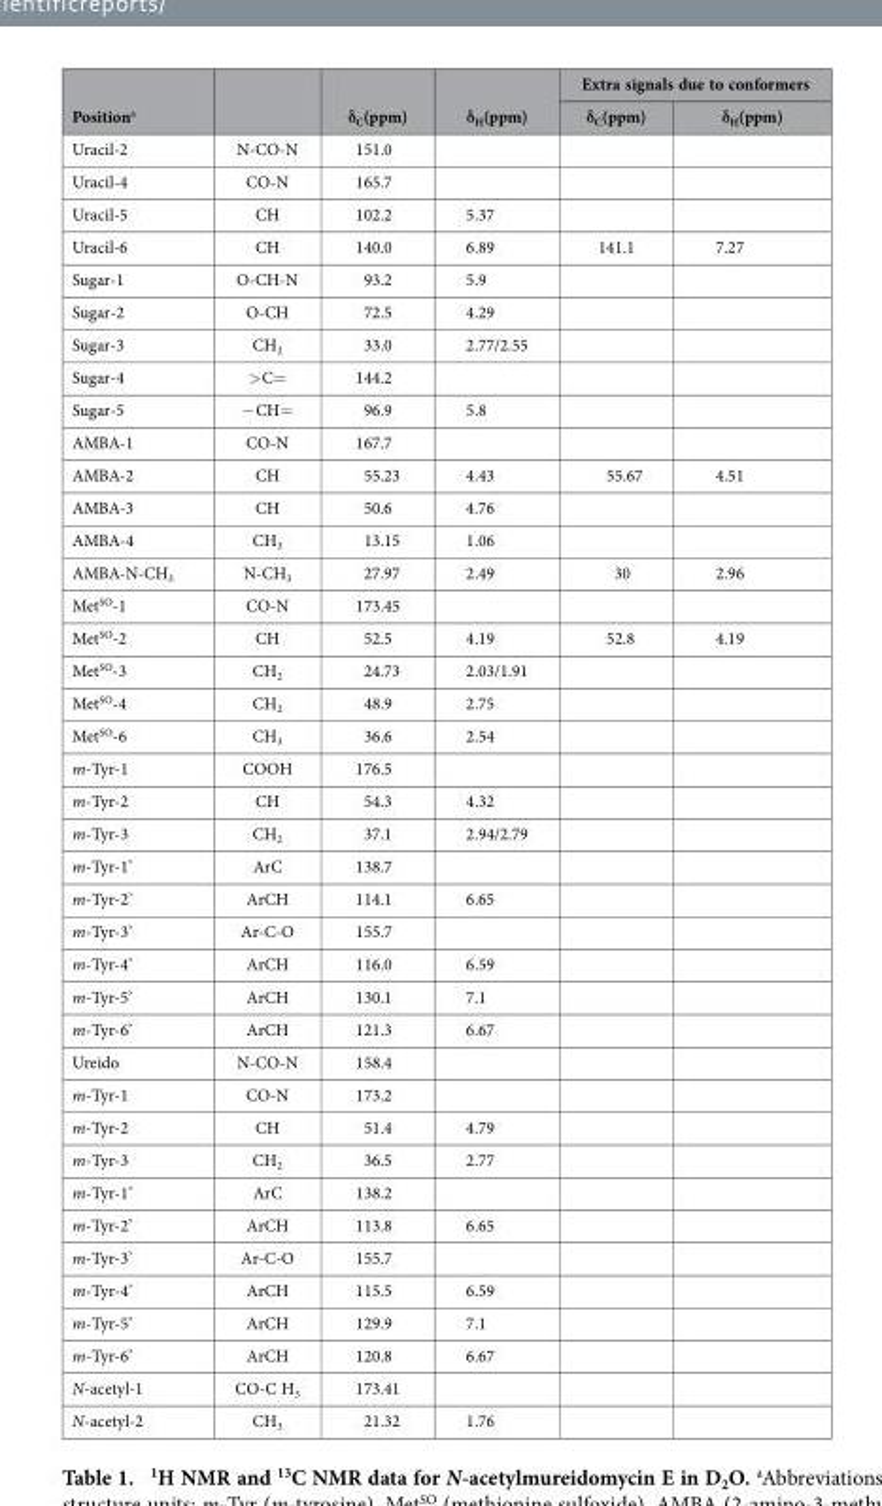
<table><thead><tr><td rowspan="2">Position<sup>a</sup></td><td rowspan="2"></td><td rowspan="2">δ<sub>C</sub>(ppm)</td><td rowspan="2">δ<sub>H</sub>(ppm)</td><td colspan="2">Extra signals due to conformers</td></tr><tr><td>δ<sub>C</sub>(ppm)</td><td>δ<sub>H</sub>(ppm)</td></tr></thead><tbody><tr><td>Uracil-2</td><td>N-CO-N</td><td>151.0</td><td></td><td></td><td></td></tr><tr><td>Uracil-4</td><td>CO-N</td><td>165.7</td><td></td><td></td><td></td></tr><tr><td>Uracil-5</td><td>CH</td><td>102.2</td><td>5.37</td><td></td><td></td></tr><tr><td>Uracil-6</td><td>CH</td><td>140.0</td><td>6.89</td><td>141.1</td><td>7.27</td></tr><tr><td>Sugar-1</td><td>O-CH-N</td><td>93.2</td><td>5.9</td><td></td><td></td></tr><tr><td>Sugar-2</td><td>O-CH</td><td>72.5</td><td>4.29</td><td></td><td></td></tr><tr><td>Sugar-3</td><td>CH<sub>2</sub></td><td>33.0</td><td>2.77/2.55</td><td></td><td></td></tr><tr><td>Sugar-4</td><td>&gt; C=</td><td>144.2</td><td></td><td></td><td></td></tr><tr><td>Sugar-5</td><td>− CH=</td><td>96.9</td><td>5.8</td><td></td><td></td></tr><tr><td>AMBA-1</td><td>CO-N</td><td>167.7</td><td></td><td></td><td></td></tr><tr><td>AMBA-2</td><td>CH</td><td>55.23</td><td>4.43</td><td>55.67</td><td>4.51</td></tr><tr><td>AMBA-3</td><td>CH</td><td>50.6</td><td>4.76</td><td></td><td></td></tr><tr><td>AMBA-4</td><td>CH<sub>3</sub></td><td>13.15</td><td>1.06</td><td></td><td></td></tr><tr><td>AMBA-N-CH<sub>3</sub></td><td>N-CH<sub>3</sub></td><td>27.97</td><td>2.49</td><td>30</td><td>2.96</td></tr><tr><td>Met<sup>SO</sup>-1</td><td>CO-N</td><td>173.45</td><td></td><td></td><td></td></tr><tr><td>Met<sup>SO</sup>-2</td><td>CH</td><td>52.5</td><td>4.19</td><td>52.8</td><td>4.19</td></tr><tr><td>Met<sup>SO</sup>-3</td><td>CH<sub>2</sub></td><td>24.73</td><td>2.03/1.91</td><td></td><td></td></tr><tr><td>Met<sup>SO</sup>-4</td><td>CH<sub>2</sub></td><td>48.9</td><td>2.75</td><td></td><td></td></tr><tr><td>Met<sup>SO</sup>-6</td><td>CH<sub>3</sub></td><td>36.6</td><td>2.54</td><td></td><td></td></tr><tr><td>m-Tyr-1</td><td>COOH</td><td>176.5</td><td></td><td></td><td></td></tr><tr><td>m-Tyr-2</td><td>CH</td><td>54.3</td><td>4.32</td><td></td><td></td></tr><tr><td>m-Tyr-3</td><td>CH<sub>2</sub></td><td>37.1</td><td>2.94/2.79</td><td></td><td></td></tr><tr><td>m-Tyr-1’</td><td>ArC</td><td>138.7</td><td></td><td></td><td></td></tr><tr><td>m-Tyr-2’</td><td>ArCH</td><td>114.1</td><td>6.65</td><td></td><td></td></tr><tr><td>m-Tyr-3’</td><td>Ar-C-O</td><td>155.7</td><td></td><td></td><td></td></tr><tr><td>m-Tyr-4’</td><td>ArCH</td><td>116.0</td><td>6.59</td><td></td><td></td></tr><tr><td>m-Tyr-5’</td><td>ArCH</td><td>130.1</td><td>7.1</td><td></td><td></td></tr><tr><td>m-Tyr-6’</td><td>ArCH</td><td>121.3</td><td>6.67</td><td></td><td></td></tr><tr><td>Ureido</td><td>N-CO-N</td><td>158.4</td><td></td><td></td><td></td></tr><tr><td>m-Tyr-1</td><td>CO-N</td><td>173.2</td><td></td><td></td><td></td></tr><tr><td>m-Tyr-2</td><td>CH</td><td>51.4</td><td>4.79</td><td></td><td></td></tr><tr><td>m-Tyr-3</td><td>CH<sub>2</sub></td><td>36.5</td><td>2.77</td><td></td><td></td></tr><tr><td>m-Tyr-1’</td><td>ArC</td><td>138.2</td><td></td><td></td><td></td></tr><tr><td>m-Tyr-2’</td><td>ArCH</td><td>113.8</td><td>6.65</td><td></td><td></td></tr><tr><td>m-Tyr-3’</td><td>Ar-C-O</td><td>155.7</td><td></td><td></td><td></td></tr><tr><td>m-Tyr-4’</td><td>ArCH</td><td>115.5</td><td>6.59</td><td></td><td></td></tr><tr><td>m-Tyr-5’</td><td>ArCH</td><td>129.9</td><td>7.1</td><td></td><td></td></tr><tr><td>m-Tyr-6’</td><td>ArCH</td><td>120.8</td><td>6.67</td><td></td><td></td></tr><tr><td>N-acetyl-1</td><td>CO-C H<sub>3</sub></td><td>173.41</td><td></td><td></td><td></td></tr><tr><td>N-acetyl-2</td><td>CH<sub>3</sub></td><td>21.32</td><td>1.76</td><td></td><td></td></tr></tbody></table>